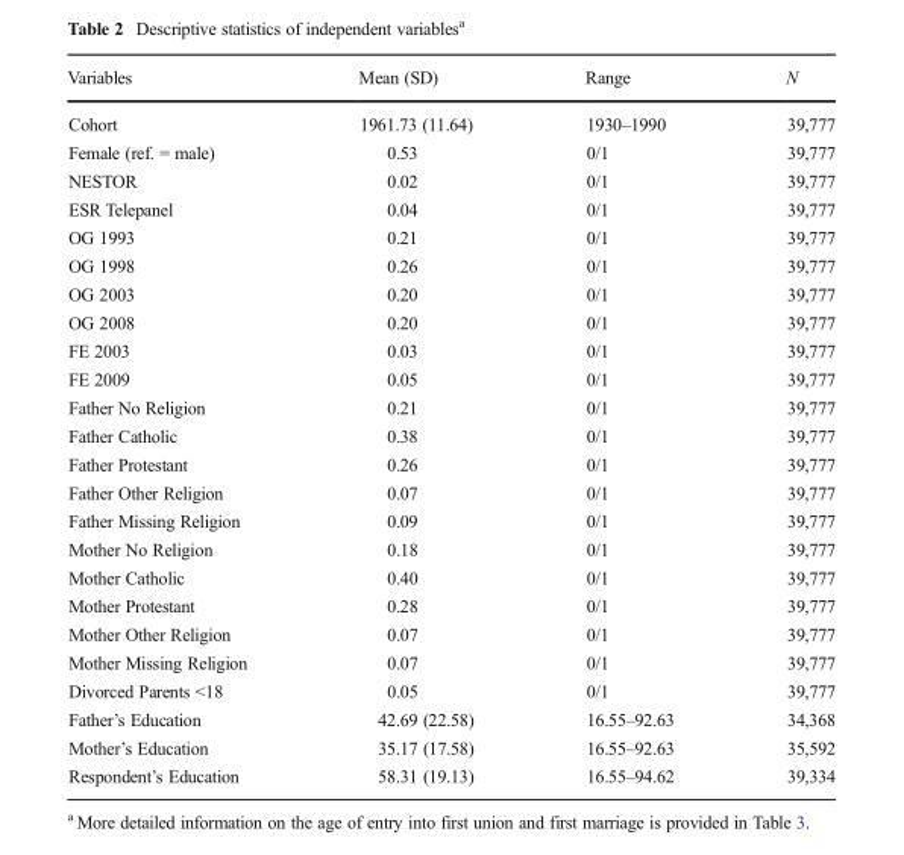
<table><thead><tr><td>Variables</td><td>Mean (SD)</td><td>Range</td><td>N</td></tr></thead><tbody><tr><td>Cohort</td><td>1961.73 (11.64)</td><td>1930–1990</td><td>39,777</td></tr><tr><td>Female (ref. = male)</td><td>0.53</td><td>0/1</td><td>39,777</td></tr><tr><td>NESTOR</td><td>0.02</td><td>0/1</td><td>39,777</td></tr><tr><td>ESR Telepanel</td><td>0.04</td><td>0/1</td><td>39,777</td></tr><tr><td>OG 1993</td><td>0.21</td><td>0/1</td><td>39,777</td></tr><tr><td>OG 1998</td><td>0.26</td><td>0/1</td><td>39,777</td></tr><tr><td>OG 2003</td><td>0.20</td><td>0/1</td><td>39,777</td></tr><tr><td>OG 2008</td><td>0.20</td><td>0/1</td><td>39,777</td></tr><tr><td>FE 2003</td><td>0.03</td><td>0/1</td><td>39,777</td></tr><tr><td>FE 2009</td><td>0.05</td><td>0/1</td><td>39,777</td></tr><tr><td>Father No Religion</td><td>0.21</td><td>0/1</td><td>39,777</td></tr><tr><td>Father Catholic</td><td>0.38</td><td>0/1</td><td>39,777</td></tr><tr><td>Father Protestant</td><td>0.26</td><td>0/1</td><td>39,777</td></tr><tr><td>Father Other Religion</td><td>0.07</td><td>0/1</td><td>39,777</td></tr><tr><td>Father Missing Religion</td><td>0.09</td><td>0/1</td><td>39,777</td></tr><tr><td>Mother No Religion</td><td>0.18</td><td>0/1</td><td>39,777</td></tr><tr><td>Mother Catholic</td><td>0.40</td><td>0/1</td><td>39,777</td></tr><tr><td>Mother Protestant</td><td>0.28</td><td>0/1</td><td>39,777</td></tr><tr><td>Mother Other Religion</td><td>0.07</td><td>0/1</td><td>39,777</td></tr><tr><td>Mother Missing Religion</td><td>0.07</td><td>0/1</td><td>39,777</td></tr><tr><td>Divorced Parents &lt;18</td><td>0.05</td><td>0/1</td><td>39,777</td></tr><tr><td>Father’s Education</td><td>42.69 (22.58)</td><td>16.55–92.63</td><td>34,368</td></tr><tr><td>Mother’s Education</td><td>35.17 (17.58)</td><td>16.55–92.63</td><td>35,592</td></tr><tr><td>Respondent’s Education</td><td>58.31 (19.13)</td><td>16.55–94.62</td><td>39,334</td></tr></tbody></table>